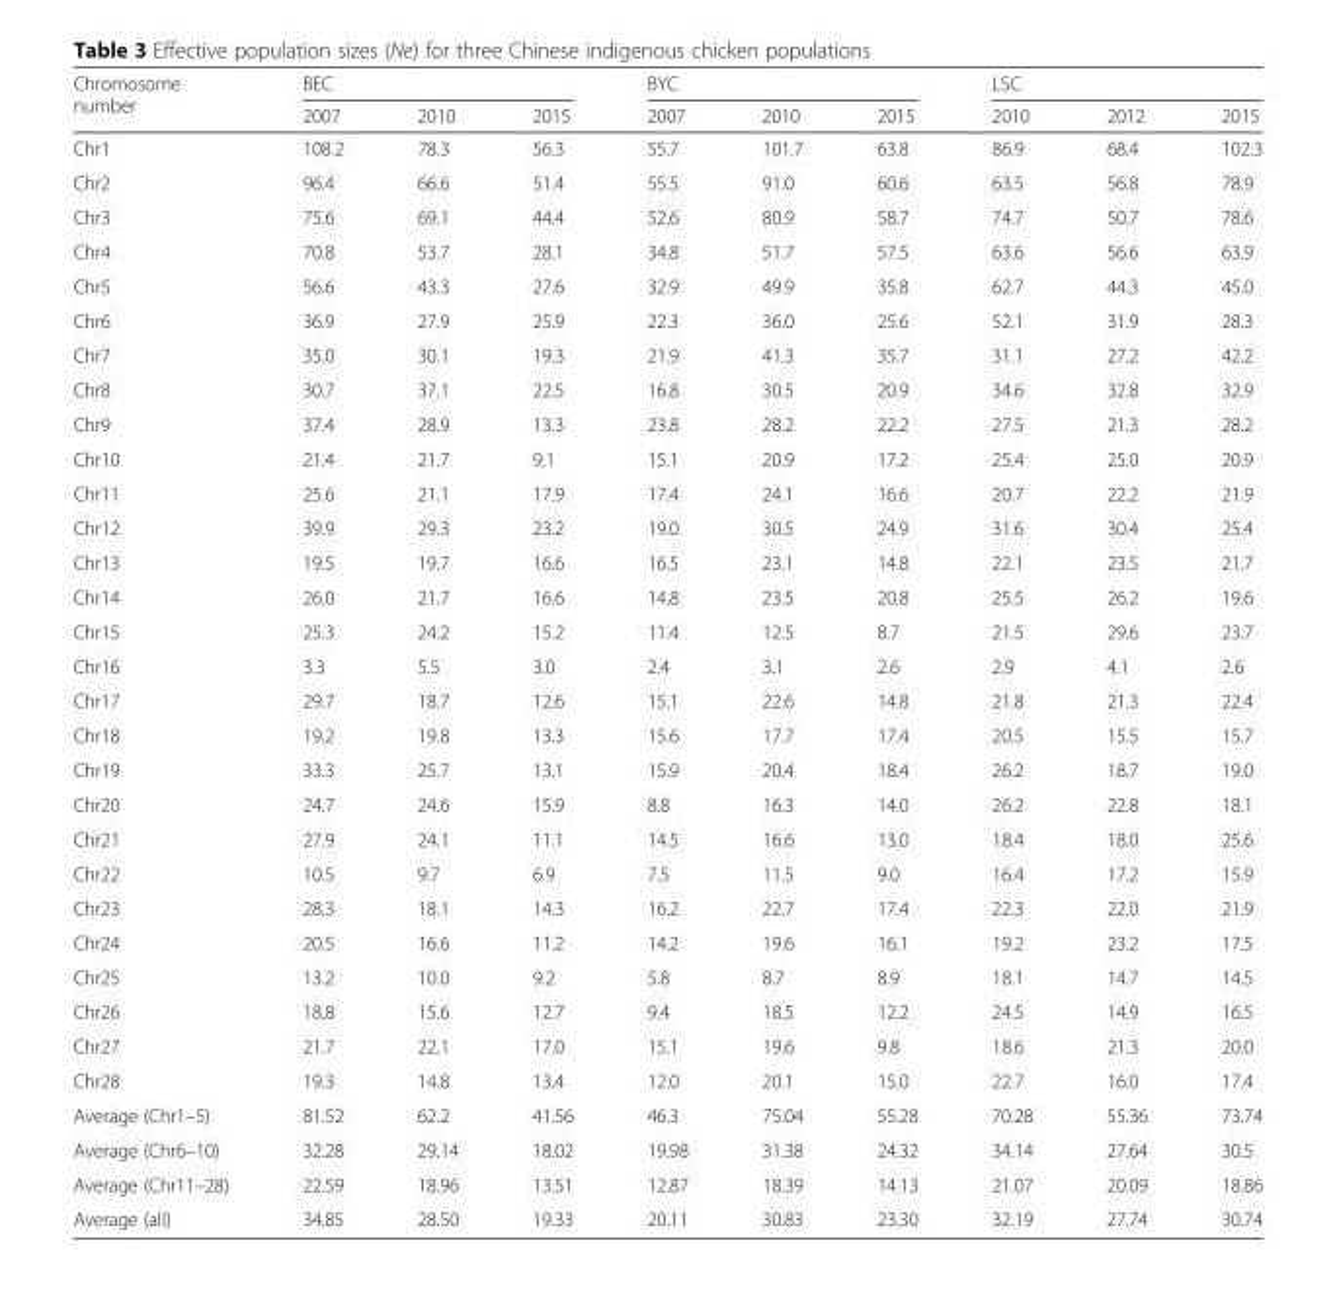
<table><thead><tr><td rowspan="2">Chromosome number</td><td colspan="3">BEC</td><td colspan="3">BYC</td><td colspan="3">LSC</td></tr><tr><td>2007</td><td>2010</td><td>2015</td><td>2007</td><td>2010</td><td>2015</td><td>2010</td><td>2012</td><td>2015</td></tr></thead><tbody><tr><td>Chr1</td><td>108.2</td><td>78.3</td><td>56.3</td><td>55.7</td><td>101.7</td><td>63.8</td><td>86.9</td><td>68.4</td><td>102.3</td></tr><tr><td>Chr2</td><td>96.4</td><td>66.6</td><td>51.4</td><td>55.5</td><td>91.0</td><td>60.6</td><td>63.5</td><td>56.8</td><td>78.9</td></tr><tr><td>Chr3</td><td>75.6</td><td>69.1</td><td>44.4</td><td>52.6</td><td>80.9</td><td>58.7</td><td>74.7</td><td>50.7</td><td>78.6</td></tr><tr><td>Chr4</td><td>70.8</td><td>53.7</td><td>28.1</td><td>34.8</td><td>51.7</td><td>57.5</td><td>63.6</td><td>56.6</td><td>63.9</td></tr><tr><td>Chr5</td><td>56.6</td><td>43.3</td><td>27.6</td><td>32.9</td><td>49.9</td><td>35.8</td><td>62.7</td><td>44.3</td><td>45.0</td></tr><tr><td>Chr6</td><td>36.9</td><td>27.9</td><td>25.9</td><td>22.3</td><td>36.0</td><td>25.6</td><td>52.1</td><td>31.9</td><td>28.3</td></tr><tr><td>Chr7</td><td>35.0</td><td>30.1</td><td>19.3</td><td>21.9</td><td>41.3</td><td>35.7</td><td>31.1</td><td>27.2</td><td>42.2</td></tr><tr><td>Chr8</td><td>30.7</td><td>37.1</td><td>22.5</td><td>16.8</td><td>30.5</td><td>20.9</td><td>34.6</td><td>32.8</td><td>32.9</td></tr><tr><td>Chr9</td><td>37.4</td><td>28.9</td><td>13.3</td><td>23.8</td><td>28.2</td><td>22.2</td><td>27.5</td><td>21.3</td><td>28.2</td></tr><tr><td>Chr10</td><td>21.4</td><td>21.7</td><td>9.1</td><td>15.1</td><td>20.9</td><td>17.2</td><td>25.4</td><td>25.0</td><td>20.9</td></tr><tr><td>Chr11</td><td>25.6</td><td>21.1</td><td>17.9</td><td>17.4</td><td>24.1</td><td>16.6</td><td>20.7</td><td>22.2</td><td>21.9</td></tr><tr><td>Chr12</td><td>39.9</td><td>29.3</td><td>23.2</td><td>19.0</td><td>30.5</td><td>24.9</td><td>31.6</td><td>30.4</td><td>25.4</td></tr><tr><td>Chr13</td><td>19.5</td><td>19.7</td><td>16.6</td><td>16.5</td><td>23.1</td><td>14.8</td><td>22.1</td><td>23.5</td><td>21.7</td></tr><tr><td>Chr14</td><td>26.0</td><td>21.7</td><td>16.6</td><td>14.8</td><td>23.5</td><td>20.8</td><td>25.5</td><td>26.2</td><td>19.6</td></tr><tr><td>Chr15</td><td>25.3</td><td>24.2</td><td>15.2</td><td>11.4</td><td>12.5</td><td>8.7</td><td>21.5</td><td>29.6</td><td>23.7</td></tr><tr><td>Chr16</td><td>3.3</td><td>5.5</td><td>3.0</td><td>2.4</td><td>3.1</td><td>2.6</td><td>2.9</td><td>4.1</td><td>2.6</td></tr><tr><td>Chr17</td><td>29.7</td><td>18.7</td><td>12.6</td><td>15.1</td><td>22.6</td><td>14.8</td><td>21.8</td><td>21.3</td><td>22.4</td></tr><tr><td>Chr18</td><td>19.2</td><td>19.8</td><td>13.3</td><td>15.6</td><td>17.7</td><td>17.4</td><td>20.5</td><td>15.5</td><td>15.7</td></tr><tr><td>Chr19</td><td>33.3</td><td>25.7</td><td>13.1</td><td>15.9</td><td>20.4</td><td>18.4</td><td>26.2</td><td>18.7</td><td>19.0</td></tr><tr><td>Chr20</td><td>24.7</td><td>24.6</td><td>15.9</td><td>8.8</td><td>16.3</td><td>14.0</td><td>26.2</td><td>22.8</td><td>18.1</td></tr><tr><td>Chr21</td><td>27.9</td><td>24.1</td><td>11.1</td><td>14.5</td><td>16.6</td><td>13.0</td><td>18.4</td><td>18.0</td><td>25.6</td></tr><tr><td>Chr22</td><td>10.5</td><td>9.7</td><td>6.9</td><td>7.5</td><td>11.5</td><td>9.0</td><td>16.4</td><td>17.2</td><td>15.9</td></tr><tr><td>Chr23</td><td>28.3</td><td>18.1</td><td>14.3</td><td>16.2</td><td>22.7</td><td>17.4</td><td>22.3</td><td>22.0</td><td>21.9</td></tr><tr><td>Chr24</td><td>20.5</td><td>16.6</td><td>11.2</td><td>14.2</td><td>19.6</td><td>16.1</td><td>19.2</td><td>23.2</td><td>17.5</td></tr><tr><td>Chr25</td><td>13.2</td><td>10.0</td><td>9.2</td><td>5.8</td><td>8.7</td><td>8.9</td><td>18.1</td><td>14.7</td><td>14.5</td></tr><tr><td>Chr26</td><td>18.8</td><td>15.6</td><td>12.7</td><td>9.4</td><td>18.5</td><td>12.2</td><td>24.5</td><td>14.9</td><td>16.5</td></tr><tr><td>Chr27</td><td>21.7</td><td>22.1</td><td>17.0</td><td>15.1</td><td>19.6</td><td>9.8</td><td>18.6</td><td>21.3</td><td>20.0</td></tr><tr><td>Chr28</td><td>19.3</td><td>14.8</td><td>13.4</td><td>12.0</td><td>20.1</td><td>15.0</td><td>22.7</td><td>16.0</td><td>17.4</td></tr><tr><td>Average (Chr1–5)</td><td>81.52</td><td>62.2</td><td>41.56</td><td>46.3</td><td>75.04</td><td>55.28</td><td>70.28</td><td>55.36</td><td>73.74</td></tr><tr><td>Average (Chr6–10)</td><td>32.28</td><td>29.14</td><td>18.02</td><td>19.98</td><td>31.38</td><td>24.32</td><td>34.14</td><td>27.64</td><td>30.5</td></tr><tr><td>Average (Chr11–28)</td><td>22.59</td><td>18.96</td><td>13.51</td><td>12.87</td><td>18.39</td><td>14.13</td><td>21.07</td><td>20.09</td><td>18.86</td></tr><tr><td>Average (all)</td><td>34.85</td><td>28.50</td><td>19.33</td><td>20.11</td><td>30.83</td><td>23.30</td><td>32.19</td><td>27.74</td><td>30.74</td></tr></tbody></table>